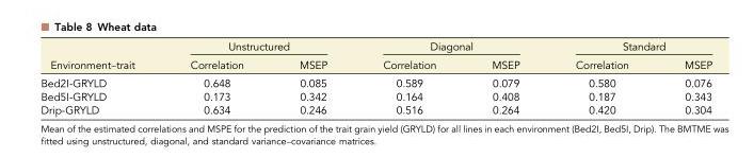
<table><thead><tr><td rowspan="2">Environment–trait</td><td colspan="2">Unstructured</td><td colspan="2">Diagonal</td><td colspan="2">Standard</td></tr><tr><td>Correlation</td><td>MSEP</td><td>Correlation</td><td>MSEP</td><td>Correlation</td><td>MSEP</td></tr></thead><tbody><tr><td>Bed2I-GRYLD</td><td>0.648</td><td>0.085</td><td>0.589</td><td>0.079</td><td>0.580</td><td>0.076</td></tr><tr><td>Bed5I-GRYLD</td><td>0.173</td><td>0.342</td><td>0.164</td><td>0.408</td><td>0.187</td><td>0.343</td></tr><tr><td>Drip-GRYLD</td><td>0.634</td><td>0.246</td><td>0.516</td><td>0.264</td><td>0.420</td><td>0.304</td></tr></tbody></table>